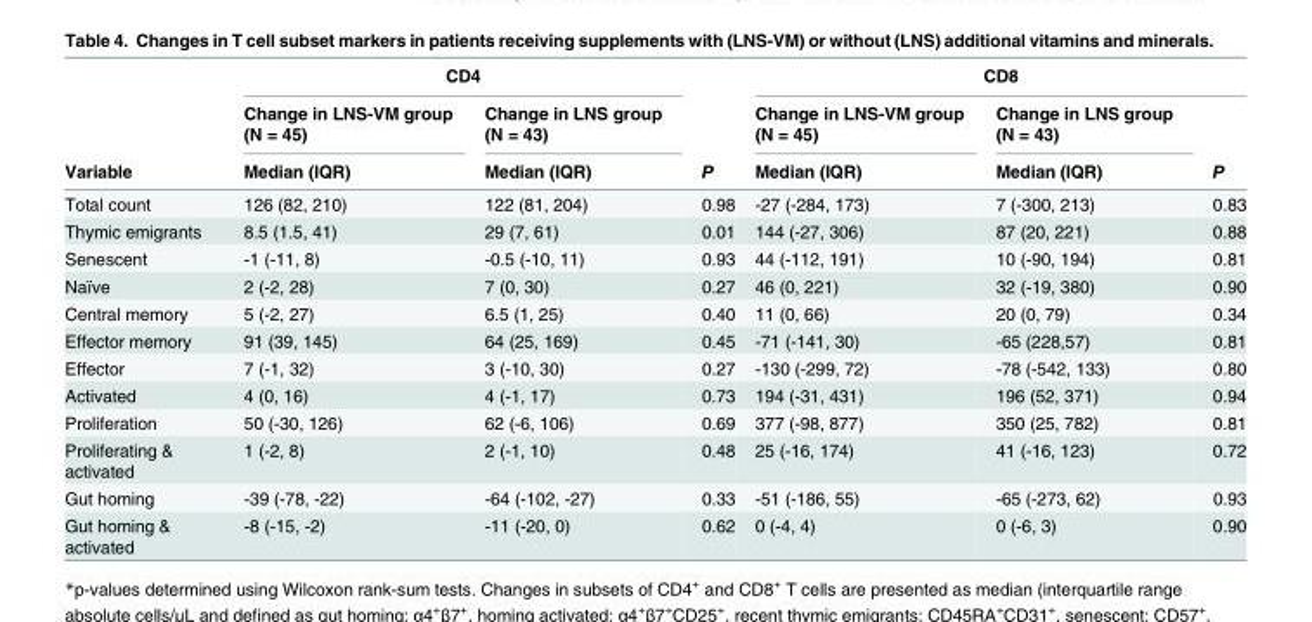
<table><thead><tr><td rowspan="3">Variable</td><td colspan="2">CD4</td><td rowspan="3">P</td><td colspan="3">CD8</td></tr><tr><td rowspan="2">Change in LNS-VM group (N = 45) Median (IQR)</td><td rowspan="2">Change in LNS group (N = 43) Median (IQR)</td><td rowspan="2">Change in LNS-VM group (N = 45) Median (IQR)</td><td rowspan="2">Change in LNS group (N = 43) Median (IQR)</td><td rowspan="2">P</td></tr><tr></tr></thead><tbody><tr><td>Total count</td><td>126 (82, 210)</td><td>122 (81, 204)</td><td>0.98</td><td>-27 (-284, 173)</td><td>7 (-300, 213)</td><td>0.83</td></tr><tr><td>Thymic emigrants</td><td>8.5 (1.5, 41)</td><td>29 (7, 61)</td><td>0.01</td><td>144 (-27, 306)</td><td>87 (20, 221)</td><td>0.88</td></tr><tr><td>Senescent</td><td>-1 (-11, 8)</td><td>-0.5 (-10, 11)</td><td>0.93</td><td>44 (-112, 191)</td><td>10 (-90, 194)</td><td>0.81</td></tr><tr><td>Naïve</td><td>2 (-2, 28)</td><td>7 (0, 30)</td><td>0.27</td><td>46 (0, 221)</td><td>32 (-19, 380)</td><td>0.90</td></tr><tr><td>Central memory</td><td>5 (-2, 27)</td><td>6.5 (1, 25)</td><td>0.40</td><td>11 (0, 66)</td><td>20 (0, 79)</td><td>0.34</td></tr><tr><td>Effector memory</td><td>91 (39, 145)</td><td>64 (25, 169)</td><td>0.45</td><td>-71 (-141, 30)</td><td>-65 (228,57)</td><td>0.81</td></tr><tr><td>Effector</td><td>7 (-1, 32)</td><td>3 (-10, 30)</td><td>0.27</td><td>-130 (-299, 72)</td><td>-78 (-542, 133)</td><td>0.80</td></tr><tr><td>Activated</td><td>4 (0, 16)</td><td>4 (-1, 17)</td><td>0.73</td><td>194 (-31, 431)</td><td>196 (52, 371)</td><td>0.94</td></tr><tr><td>Proliferation</td><td>50 (-30, 126)</td><td>62 (-6, 106)</td><td>0.69</td><td>377 (-98, 877)</td><td>350 (25, 782)</td><td>0.81</td></tr><tr><td>Proliferating &amp; activated</td><td>1 (-2, 8)</td><td>2 (-1, 10)</td><td>0.48</td><td>25 (-16, 174)</td><td>41 (-16, 123)</td><td>0.72</td></tr><tr><td>Gut homing</td><td>-39 (-78, -22)</td><td>-64 (-102, -27)</td><td>0.33</td><td>-51 (-186, 55)</td><td>-65 (-273, 62)</td><td>0.93</td></tr><tr><td>Gut homing &amp; activated</td><td>-8 (-15, -2)</td><td>-11 (-20, 0)</td><td>0.62</td><td>0 (-4, 4)</td><td>0 (-6, 3)</td><td>0.90</td></tr></tbody></table>